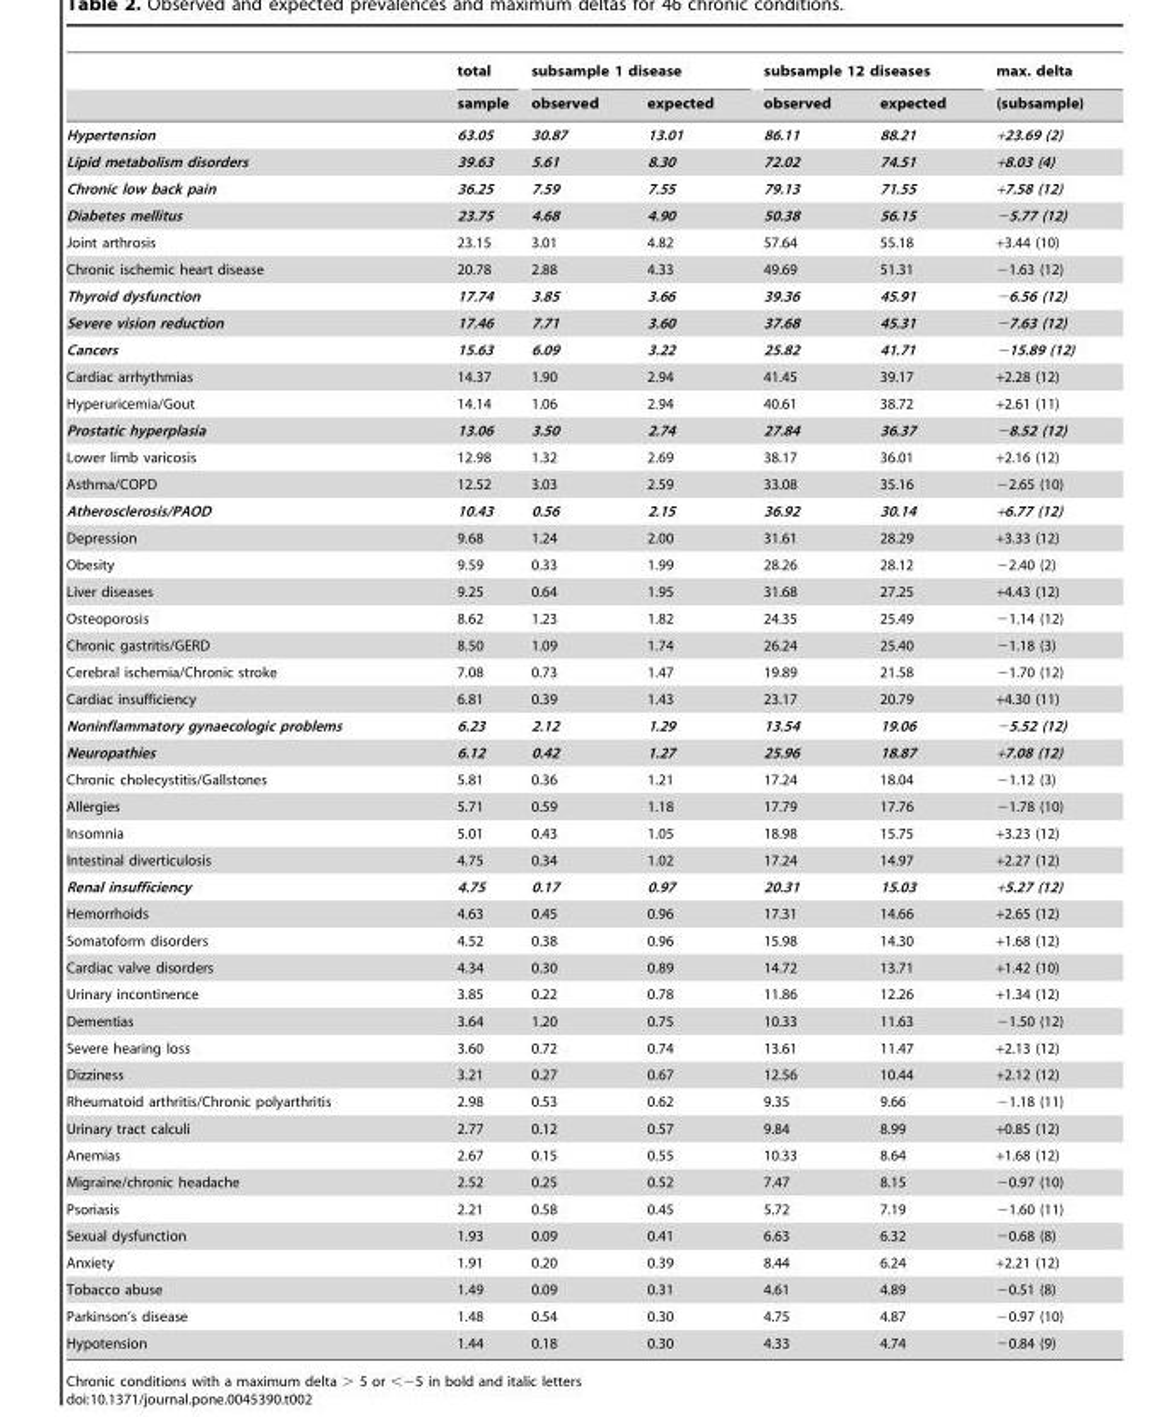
<table><thead><tr><td rowspan="2"></td><td rowspan="2">total sample</td><td colspan="2">subsample 1 disease</td><td colspan="2">subsample 12 diseases</td><td rowspan="2">max. delta (subsample)</td></tr><tr><td>observed</td><td>expected</td><td>observed</td><td>expected</td></tr></thead><tbody><tr><td>Hypertension</td><td>63.05</td><td>30.87</td><td>13.01</td><td>86.11</td><td>88.21</td><td>+23.69 (2)</td></tr><tr><td>Lipid metabolism disorders</td><td>39.63</td><td>5.61</td><td>8.30</td><td>72.02</td><td>74.51</td><td>+8.03 (4)</td></tr><tr><td>Chronic low back pain</td><td>36.25</td><td>7.59</td><td>7.55</td><td>79.13</td><td>71.55</td><td>+7.58 (12)</td></tr><tr><td>Diabetes mellitus</td><td>23.75</td><td>4.68</td><td>4.90</td><td>50.38</td><td>56.15</td><td>−5.77 (12)</td></tr><tr><td>Joint arthrosis</td><td>23.15</td><td>3.01</td><td>4.82</td><td>57.64</td><td>55.18</td><td>+3.44 (10)</td></tr><tr><td>Chronic ischemic heart disease</td><td>20.78</td><td>2.88</td><td>4.33</td><td>49.69</td><td>51.31</td><td>−1.63 (12)</td></tr><tr><td>Thyroid dysfunction</td><td>17.74</td><td>3.85</td><td>3.66</td><td>39.36</td><td>45.91</td><td>−6.56 (12)</td></tr><tr><td>Severe vision reduction</td><td>17.46</td><td>7.71</td><td>3.60</td><td>37.68</td><td>45.31</td><td>−7.63 (12)</td></tr><tr><td>Cancers</td><td>15.63</td><td>6.09</td><td>3.22</td><td>25.82</td><td>41.71</td><td>−15.89 (12)</td></tr><tr><td>Cardiac arrhythmias</td><td>14.37</td><td>1.90</td><td>2.94</td><td>41.45</td><td>39.17</td><td>+2.28 (12)</td></tr><tr><td>Hyperuricemia/Gout</td><td>14.14</td><td>1.06</td><td>2.94</td><td>40.61</td><td>38.72</td><td>+2.61 (11)</td></tr><tr><td>Prostatic hyperplasia</td><td>13.06</td><td>3.50</td><td>2.74</td><td>27.84</td><td>36.37</td><td>−8.52 (12)</td></tr><tr><td>Lower limb varicosis</td><td>12.98</td><td>1.32</td><td>2.69</td><td>38.17</td><td>36.01</td><td>+2.16 (12)</td></tr><tr><td>Asthma/COPD</td><td>12.52</td><td>3.03</td><td>2.59</td><td>33.08</td><td>35.16</td><td>−2.65 (10)</td></tr><tr><td>Atherosclerosis/PAOD</td><td>10.43</td><td>0.56</td><td>2.15</td><td>36.92</td><td>30.14</td><td>+6.77 (12)</td></tr><tr><td>Depression</td><td>9.68</td><td>1.24</td><td>2.00</td><td>31.61</td><td>28.29</td><td>+3.33 (12)</td></tr><tr><td>Obesity</td><td>9.59</td><td>0.33</td><td>1.99</td><td>28.26</td><td>28.12</td><td>−2.40 (2)</td></tr><tr><td>Liver diseases</td><td>9.25</td><td>0.64</td><td>1.95</td><td>31.68</td><td>27.25</td><td>+4.43 (12)</td></tr><tr><td>Osteoporosis</td><td>8.62</td><td>1.23</td><td>1.82</td><td>24.35</td><td>25.49</td><td>−1.14 (12)</td></tr><tr><td>Chronic gastritis/GERD</td><td>8.50</td><td>1.09</td><td>1.74</td><td>26.24</td><td>25.40</td><td>−1.18 (3)</td></tr><tr><td>Cerebral ischemia/Chronic stroke</td><td>7.08</td><td>0.73</td><td>1.47</td><td>19.89</td><td>21.58</td><td>−1.70 (12)</td></tr><tr><td>Cardiac insufficiency</td><td>6.81</td><td>0.39</td><td>1.43</td><td>23.17</td><td>20.79</td><td>+4.30 (11)</td></tr><tr><td>Noninflammatory gynaecologic problems</td><td>6.23</td><td>2.12</td><td>1.29</td><td>13.54</td><td>19.06</td><td>−5.52 (12)</td></tr><tr><td>Neuropathies</td><td>6.12</td><td>0.42</td><td>1.27</td><td>25.96</td><td>18.87</td><td>+7.08 (12)</td></tr><tr><td>Chronic cholecystitis/Gallstones</td><td>5.81</td><td>0.36</td><td>1.21</td><td>17.24</td><td>18.04</td><td>−1.12 (3)</td></tr><tr><td>Allergies</td><td>5.71</td><td>0.59</td><td>1.18</td><td>17.79</td><td>17.76</td><td>−1.78 (10)</td></tr><tr><td>Insomnia</td><td>5.01</td><td>0.43</td><td>1.05</td><td>18.98</td><td>15.75</td><td>+3.23 (12)</td></tr><tr><td>Intestinal diverticulosis</td><td>4.75</td><td>0.34</td><td>1.02</td><td>17.24</td><td>14.97</td><td>+2.27 (12)</td></tr><tr><td>Renal insufficiency</td><td>4.75</td><td>0.17</td><td>0.97</td><td>20.31</td><td>15.03</td><td>+5.27 (12)</td></tr><tr><td>Hemorrhoids</td><td>4.63</td><td>0.45</td><td>0.96</td><td>17.31</td><td>14.66</td><td>+2.65 (12)</td></tr><tr><td>Somatoform disorders</td><td>4.52</td><td>0.38</td><td>0.96</td><td>15.98</td><td>14.30</td><td>+1.68 (12)</td></tr><tr><td>Cardiac valve disorders</td><td>4.34</td><td>0.30</td><td>0.89</td><td>14.72</td><td>13.71</td><td>+1.42 (10)</td></tr><tr><td>Urinary incontinence</td><td>3.85</td><td>0.22</td><td>0.78</td><td>11.86</td><td>12.26</td><td>+1.34 (12)</td></tr><tr><td>Dementias</td><td>3.64</td><td>1.20</td><td>0.75</td><td>10.33</td><td>11.63</td><td>−1.50 (12)</td></tr><tr><td>Severe hearing loss</td><td>3.60</td><td>0.72</td><td>0.74</td><td>13.61</td><td>11.47</td><td>+2.13 (12)</td></tr><tr><td>Dizziness</td><td>3.21</td><td>0.27</td><td>0.67</td><td>12.56</td><td>10.44</td><td>+2.12 (12)</td></tr><tr><td>Rheumatoid arthritis/Chronic polyarthritis</td><td>2.98</td><td>0.53</td><td>0.62</td><td>9.35</td><td>9.66</td><td>−1.18 (11)</td></tr><tr><td>Urinary tract calculi</td><td>2.77</td><td>0.12</td><td>0.57</td><td>9.84</td><td>8.99</td><td>+0.85 (12)</td></tr><tr><td>Anemias</td><td>2.67</td><td>0.15</td><td>0.55</td><td>10.33</td><td>8.64</td><td>+1.68 (12)</td></tr><tr><td>Migraine/chronic headache</td><td>2.52</td><td>0.25</td><td>0.52</td><td>7.47</td><td>8.15</td><td>−0.97 (10)</td></tr><tr><td>Psoriasis</td><td>2.21</td><td>0.58</td><td>0.45</td><td>5.72</td><td>7.19</td><td>−1.60 (11)</td></tr><tr><td>Sexual dysfunction</td><td>1.93</td><td>0.09</td><td>0.41</td><td>6.63</td><td>6.32</td><td>−0.68 (8)</td></tr><tr><td>Anxiety</td><td>1.91</td><td>0.20</td><td>0.39</td><td>8.44</td><td>6.24</td><td>+2.21 (12)</td></tr><tr><td>Tobacco abuse</td><td>1.49</td><td>0.09</td><td>0.31</td><td>4.61</td><td>4.89</td><td>−0.51 (8)</td></tr><tr><td>Parkinson’s disease</td><td>1.48</td><td>0.54</td><td>0.30</td><td>4.75</td><td>4.87</td><td>−0.97 (10)</td></tr><tr><td>Hypotension</td><td>1.44</td><td>0.18</td><td>0.30</td><td>4.33</td><td>4.74</td><td>−0.84 (9)</td></tr></tbody></table>